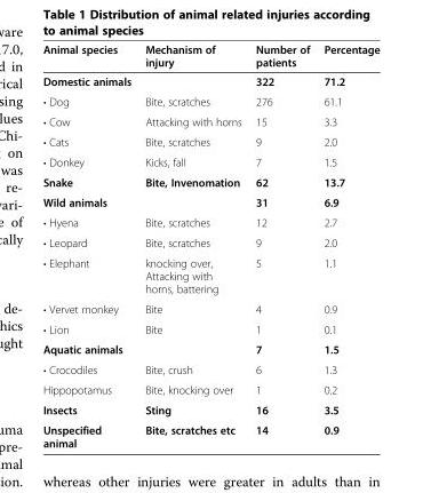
<table><thead><tr><td>Animal species</td><td>Mechanism of injury</td><td>Number of patients</td><td>Percentage</td></tr></thead><tbody><tr><td>Domestic animals</td><td></td><td>322</td><td>71.2</td></tr><tr><td>• Dog</td><td>Bite, scratches</td><td>276</td><td>61.1</td></tr><tr><td>• Cow</td><td>Attacking with horns</td><td>15</td><td>3.3</td></tr><tr><td>• Cats</td><td>Bite, scratches</td><td>9</td><td>2.0</td></tr><tr><td>• Donkey</td><td>Kicks, fall</td><td>7</td><td>1.5</td></tr><tr><td>Snake</td><td>Bite, Invenomation</td><td>62</td><td>13.7</td></tr><tr><td>Wild animals</td><td></td><td>31</td><td>6.9</td></tr><tr><td>• Hyena</td><td>Bite, scratches</td><td>12</td><td>2.7</td></tr><tr><td>• Leopard</td><td>Bite, scratches</td><td>9</td><td>2.0</td></tr><tr><td>• Elephant</td><td>knocking over, Attacking with horns, battering</td><td>5</td><td>1.1</td></tr><tr><td>• Vervet monkey</td><td>Bite</td><td>4</td><td>0.9</td></tr><tr><td>• Lion</td><td>Bite</td><td>1</td><td>0.1</td></tr><tr><td>Aquatic animals</td><td></td><td>7</td><td>1.5</td></tr><tr><td>• Crocodiles</td><td>Bite, crush</td><td>6</td><td>1.3</td></tr><tr><td>Hippopotamus</td><td>Bite, knocking over</td><td>1</td><td>0.2</td></tr><tr><td>Insects</td><td>Sting</td><td>16</td><td>3.5</td></tr><tr><td>Unspecified animal</td><td>Bite, scratches etc</td><td>14</td><td>0.9</td></tr></tbody></table>